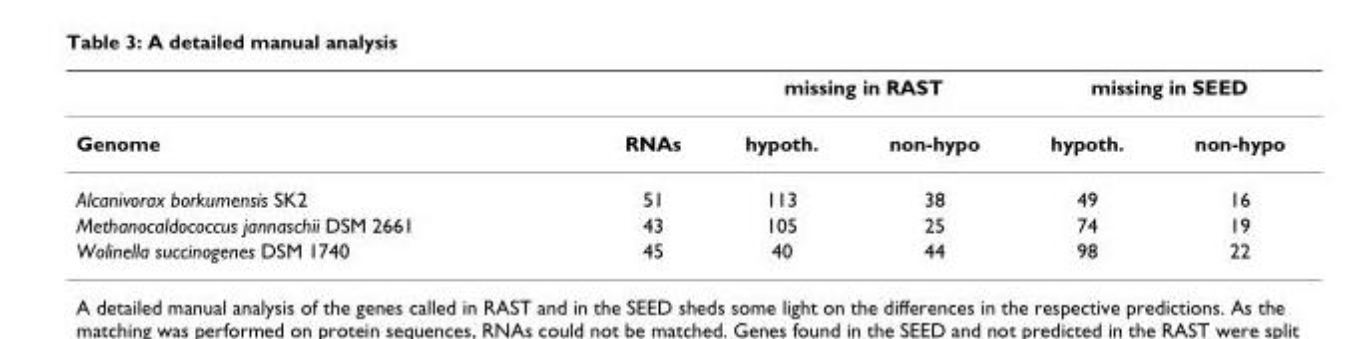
<table><thead><tr><td rowspan="2">Genome</td><td rowspan="2">RNAs</td><td colspan="2">missing in RAST</td><td colspan="2">missing in SEED</td></tr><tr><td>hypoth.</td><td>non-hypo</td><td>hypoth.</td><td>non-hypo</td></tr></thead><tbody><tr><td>Alcanivorax borkumensis SK2</td><td>51</td><td>113</td><td>38</td><td>49</td><td>16</td></tr><tr><td>Methanocaldococcus jannaschii DSM 2661</td><td>43</td><td>105</td><td>25</td><td>74</td><td>19</td></tr><tr><td>Wolinella succinogenes DSM 1740</td><td>45</td><td>40</td><td>44</td><td>98</td><td>22</td></tr></tbody></table>